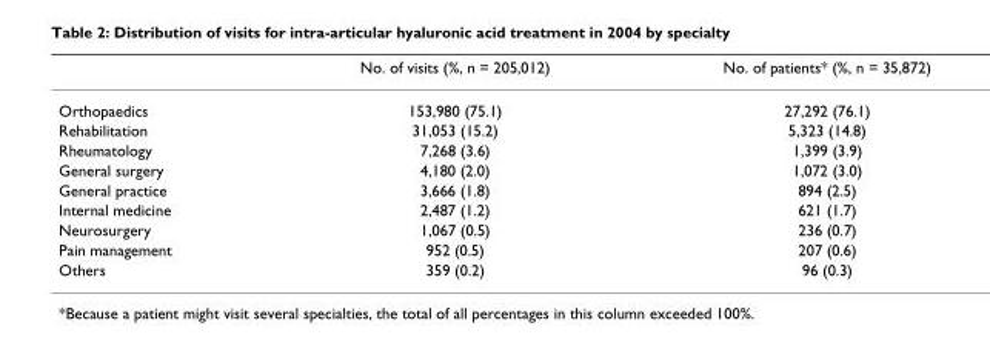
<table><thead><tr><td></td><td>No. of visits (%, n = 205,012)</td><td>No. of patients* (%, n = 35,872)</td></tr></thead><tbody><tr><td>Orthopaedics</td><td>153,980 (75.1)</td><td>27,292 (76.1)</td></tr><tr><td>Rehabilitation</td><td>31,053 (15.2)</td><td>5,323 (14.8)</td></tr><tr><td>Rheumatology</td><td>7,268 (3.6)</td><td>1,399 (3.9)</td></tr><tr><td>General surgery</td><td>4,180 (2.0)</td><td>1,072 (3.0)</td></tr><tr><td>General practice</td><td>3,666 (1.8)</td><td>894 (2.5)</td></tr><tr><td>Internal medicine</td><td>2,487 (1.2)</td><td>621 (1.7)</td></tr><tr><td>Neurosurgery</td><td>1,067 (0.5)</td><td>236 (0.7)</td></tr><tr><td>Pain management</td><td>952 (0.5)</td><td>207 (0.6)</td></tr><tr><td>Others</td><td>359 (0.2)</td><td>96 (0.3)</td></tr></tbody></table>